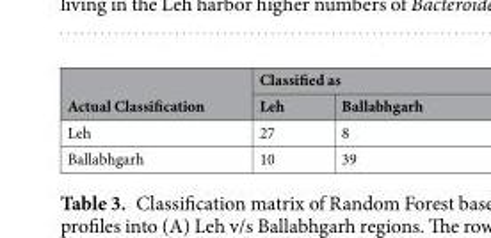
<table><thead><tr><td rowspan="2">Actual Classification</td><td colspan="2">Classified as</td></tr><tr><td>Leh</td><td>Ballabhgarh</td></tr></thead><tbody><tr><td>Leh</td><td>27</td><td>8</td></tr><tr><td>Ballabhgarh</td><td>10</td><td>39</td></tr></tbody></table>